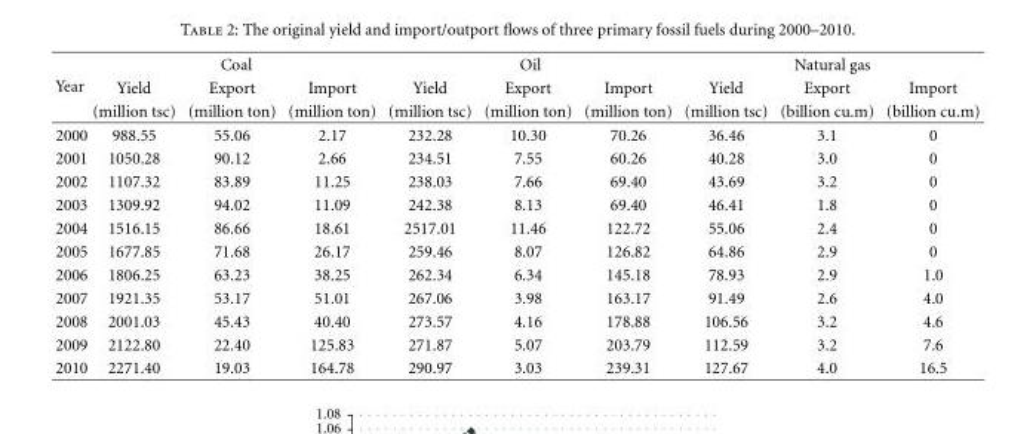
<table><thead><tr><td rowspan="3">Year</td><td colspan="3">Coal</td><td colspan="3">Oil</td><td colspan="3">Natural gas</td></tr><tr><td rowspan="2">Yield (million tsc)</td><td rowspan="2">Export (million ton)</td><td rowspan="2">Import (million ton)</td><td rowspan="2">Yield (million tsc)</td><td rowspan="2">Export (million ton)</td><td rowspan="2">Import (million ton)</td><td rowspan="2">Yield (million tsc)</td><td rowspan="2">Export (billion cu.m)</td><td rowspan="2">Import (billion cu.m)</td></tr><tr></tr></thead><tbody><tr><td>2000</td><td>988.55</td><td>55.06</td><td>2.17</td><td>232.28</td><td>10.30</td><td>70.26</td><td>36.46</td><td>3.1</td><td>0</td></tr><tr><td>2001</td><td>1050.28</td><td>90.12</td><td>2.66</td><td>234.51</td><td>7.55</td><td>60.26</td><td>40.28</td><td>3.0</td><td>0</td></tr><tr><td>2002</td><td>1107.32</td><td>83.89</td><td>11.25</td><td>238.03</td><td>7.66</td><td>69.40</td><td>43.69</td><td>3.2</td><td>0</td></tr><tr><td>2003</td><td>1309.92</td><td>94.02</td><td>11.09</td><td>242.38</td><td>8.13</td><td>69.40</td><td>46.41</td><td>1.8</td><td>0</td></tr><tr><td>2004</td><td>1516.15</td><td>86.66</td><td>18.61</td><td>2517.01</td><td>11.46</td><td>122.72</td><td>55.06</td><td>2.4</td><td>0</td></tr><tr><td>2005</td><td>1677.85</td><td>71.68</td><td>26.17</td><td>259.46</td><td>8.07</td><td>126.82</td><td>64.86</td><td>2.9</td><td>0</td></tr><tr><td>2006</td><td>1806.25</td><td>63.23</td><td>38.25</td><td>262.34</td><td>6.34</td><td>145.18</td><td>78.93</td><td>2.9</td><td>1.0</td></tr><tr><td>2007</td><td>1921.35</td><td>53.17</td><td>51.01</td><td>267.06</td><td>3.98</td><td>163.17</td><td>91.49</td><td>2.6</td><td>4.0</td></tr><tr><td>2008</td><td>2001.03</td><td>45.43</td><td>40.40</td><td>273.57</td><td>4.16</td><td>178.88</td><td>106.56</td><td>3.2</td><td>4.6</td></tr><tr><td>2009</td><td>2122.80</td><td>22.40</td><td>125.83</td><td>271.87</td><td>5.07</td><td>203.79</td><td>112.59</td><td>3.2</td><td>7.6</td></tr><tr><td>2010</td><td>2271.40</td><td>19.03</td><td>164.78</td><td>290.97</td><td>3.03</td><td>239.31</td><td>127.67</td><td>4.0</td><td>16.5</td></tr></tbody></table>